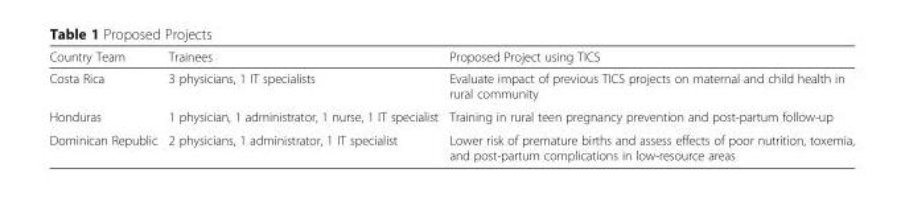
<table><thead><tr><td>Country Team</td><td>Trainees</td><td>Proposed Project using TICS</td></tr></thead><tbody><tr><td>Costa Rica</td><td>3 physicians, 1 IT specialists</td><td>Evaluate impact of previous TICS projects on maternal and child health in rural community</td></tr><tr><td>Honduras</td><td>1 physician, 1 administrator, 1 nurse, 1 IT specialist</td><td>Training in rural teen pregnancy prevention and post-partum follow-up</td></tr><tr><td>Dominican Republic</td><td>2 physicians, 1 administrator, 1 IT specialist</td><td>Lower risk of premature births and assess effects of poor nutrition, toxemia, and post-partum complications in low-resource areas</td></tr></tbody></table>